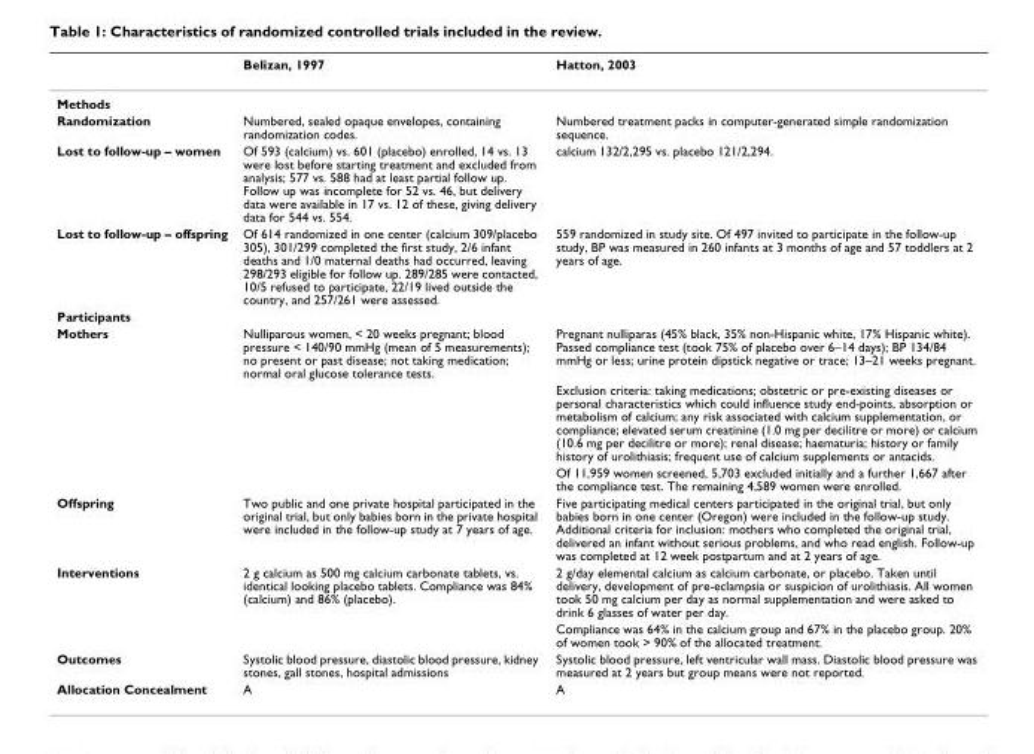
<table><thead><tr><td></td><td>Belizan, 1997</td><td>Hatton, 2003</td></tr></thead><tbody><tr><td colspan="3">Methods</td></tr><tr><td>Randomization</td><td>Numbered, sealed opaque envelopes, containing randomization codes.</td><td>Numbered treatment packs in computer-generated simple randomization sequence.</td></tr><tr><td>Lost to follow-up – women</td><td>Of 593 (calcium) vs. 601 (placebo) enrolled, 14 vs. 13 were lost before starting treatment and excluded from analysis; 577 vs. 588 had at least partial follow up. Follow up was incomplete for 52 vs. 46, but delivery data were available in 17 vs. 12 of these, giving delivery data for 544 vs. 554.</td><td>calcium 132/2,295 vs. placebo 121/2,294.</td></tr><tr><td>Lost to follow-up – offspring</td><td>Of 614 randomized in one center (calcium 309/placebo 305), 301/299 completed the first study, 2/6 infant deaths and 1/0 maternal deaths had occurred, leaving 298/293 eligible for follow up. 289/285 were contacted, 10/5 refused to participate, 22/19 lived outside the country, and 257/261 were assessed.</td><td>559 randomized in study site. Of 497 invited to participate in the follow-up study, BP was measured in 260 infants at 3 months of age and 57 toddlers at 2 years of age.</td></tr><tr><td colspan="3">Participants</td></tr><tr><td rowspan="3">Mothers</td><td>Nulliparous women, &lt; 20 weeks pregnant; blood pressure &lt; 140/90 mmHg (mean of 5 measurements); no present or past disease; not taking medication; normal oral glucose tolerance tests.</td><td>Pregnant nulliparas (45% black, 35% non-Hispanic white, 17% Hispanic white). Passed compliance test (took 75% of placebo over 6–14 days); BP 134/84 mmHg or less; urine protein dipstick negative or trace; 13–21 weeks pregnant.</td></tr><tr><td></td><td>Exclusion criteria: taking medications; obstetric or pre-existing diseases or personal characteristics which could influence study end-points, absorption or metabolism of calcium; any risk associated with calcium supplementation, or compliance; elevated serum creatinine (1.0 mg per decilitre or more) or calcium (10.6 mg per decilitre or more); renal disease; haematuria; history or family history of urolithiasis; frequent use of calcium supplements or antacids.</td></tr><tr><td></td><td>Of 11,959 women screened, 5,703 excluded initially and a further 1,667 after the compliance test. The remaining 4,589 women were enrolled.</td></tr><tr><td>Offspring</td><td>Two public and one private hospital participated in the original trial, but only babies born in the private hospital were included in the follow-up study at 7 years of age.</td><td>Five participating medical centers participated in the original trial, but only babies born in one center (Oregon) were included in the follow-up study. Additional criteria for inclusion: mothers who completed the original trial, delivered an infant without serious problems, and who read english. Follow-up was completed at 12 week postpartum and at 2 years of age.</td></tr><tr><td rowspan="2">Interventions</td><td>2 g calcium as 500 mg calcium carbonate tablets, vs. identical looking placebo tablets. Compliance was 84% (calcium) and 86% (placebo).</td><td>2 g/day elemental calcium as calcium carbonate, or placebo. Taken until delivery, development of pre-eclampsia or suspicion of urolithiasis. All women took 50 mg calcium per day as normal supplementation and were asked to drink 6 glasses of water per day.</td></tr><tr><td></td><td>Compliance was 64% in the calcium group and 67% in the placebo group. 20% of women took &gt; 90% of the allocated treatment.</td></tr><tr><td>Outcomes</td><td>Systolic blood pressure, diastolic blood pressure, kidney stones, gall stones, hospital admissions</td><td>Systolic blood pressure, left ventricular wall mass. Diastolic blood pressure was measured at 2 years but group means were not reported.</td></tr><tr><td>Allocation Concealment</td><td>A</td><td>A</td></tr></tbody></table>